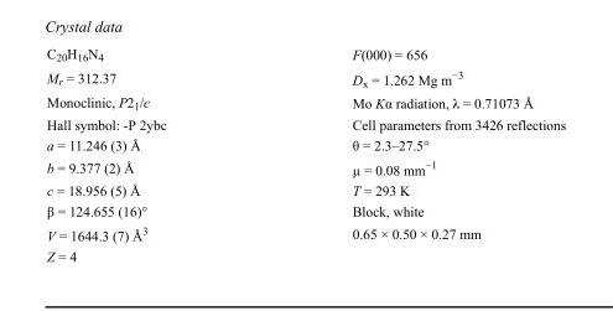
<table><tbody><tr><td>C<sub>20</sub>H<sub>16</sub>N<sub>4</sub></td><td>F(000) = 656</td></tr><tr><td>M<sub>r</sub> = 312.37</td><td>D<sub>x</sub> = 1.262 Mg m<sup>−3</sup></td></tr><tr><td>Monoclinic, P2<sub>1</sub>/c</td><td>Mo Kα radiation, λ = 0.71073 Å</td></tr><tr><td>Hall symbol: -P 2ybc</td><td>Cell parameters from 3426 reflections</td></tr><tr><td>a = 11.246 (3) Å</td><td>θ = 2.3–27.5°</td></tr><tr><td>b = 9.377 (2) Å</td><td>µ = 0.08 mm<sup>−1</sup></td></tr><tr><td>c = 18.956 (5) Å</td><td>T = 293 K</td></tr><tr><td>β = 124.655 (16)°</td><td>Block, white</td></tr><tr><td>V = 1644.3 (7) Å<sup>3</sup></td><td>0.65 × 0.50 × 0.27 mm</td></tr><tr><td>Z = 4</td><td></td></tr></tbody></table>